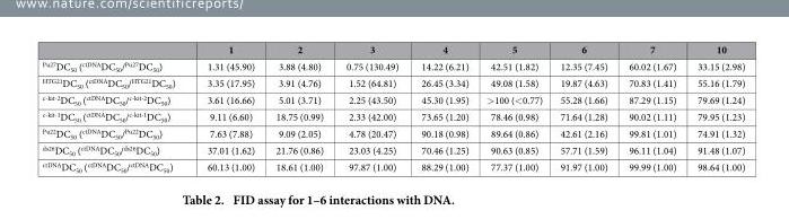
<table><thead><tr><td></td><td>1</td><td>2</td><td>3</td><td>4</td><td>5</td><td>6</td><td>7</td><td>10</td></tr></thead><tbody><tr><td><sup>Pu27</sup>DC<sub>50</sub> (<sup>ctDNA</sup>DC<sub>50</sub>/<sup>Pu27</sup>DC<sub>50</sub>)</td><td>1.31 (45.90)</td><td>3.88 (4.80)</td><td>0.75 (130.49)</td><td>14.22 (6.21)</td><td>42.51 (1.82)</td><td>12.35 (7.45)</td><td>60.02 (1.67)</td><td>33.15 (2.98)</td></tr><tr><td><sup>HTG21</sup>DC<sub>50</sub> (<sup>ctDNA</sup>DC<sub>50</sub>/<sup>HTG21</sup>DC<sub>50</sub>)</td><td>3.35 (17.95)</td><td>3.91 (4.76)</td><td>1.52 (64.81)</td><td>26.45 (3.34)</td><td>49.08 (1.58)</td><td>19.87 (4.63)</td><td>70.83 (1.41)</td><td>55.16 (1.79)</td></tr><tr><td><sup>c-kit-2</sup>DC<sub>50</sub> (<sup>ctDNA</sup>DC<sub>50</sub>/<sup>c-kit-2</sup>DC<sub>50</sub>)</td><td>3.61 (16.66)</td><td>5.01 (3.71)</td><td>2.25 (43.50)</td><td>45.30 (1.95)</td><td>&gt; 100 (&lt; 0.77)</td><td>55.28 (1.66)</td><td>87.29 (1.15)</td><td>79.69 (1.24)</td></tr><tr><td><sup>c-kit-1</sup>DC<sub>50</sub> (<sup>ctDNA</sup>DC<sub>50</sub>/<sup>c-kit-1</sup>DC<sub>50</sub>)</td><td>9.11 (6.60)</td><td>18.75 (0.99)</td><td>2.33 (42.00)</td><td>73.65 (1.20)</td><td>78.46 (0.98)</td><td>71.64 (1.28)</td><td>90.02 (1.11)</td><td>79.95 (1.23)</td></tr><tr><td><sup>Pu22</sup>DC<sub>50</sub> (<sup>ctDNA</sup>DC<sub>50</sub>/<sup>Pu22</sup>DC<sub>50</sub>)</td><td>7.63 (7.88)</td><td>9.09 (2.05)</td><td>4.78 (20.47)</td><td>90.18 (0.98)</td><td>89.64 (0.86)</td><td>42.61 (2.16)</td><td>99.81 (1.01)</td><td>74.91 (1.32)</td></tr><tr><td><sup>ds26</sup>DC<sub>50</sub> (<sup>ctDNA</sup>DC<sub>50</sub>/<sup>ds26</sup>DC<sub>50</sub>)</td><td>37.01 (1.62)</td><td>21.76 (0.86)</td><td>23.03 (4.25)</td><td>70.46 (1.25)</td><td>90.63 (0.85)</td><td>57.71 (1.59)</td><td>96.11 (1.04)</td><td>91.48 (1.07)</td></tr><tr><td><sup>ctDNA</sup>DC<sub>50</sub> (<sup>ctDNA</sup>DC<sub>50</sub>/<sup>ctDNA</sup>DC<sub>50</sub>)</td><td>60.13 (1.00)</td><td>18.61 (1.00)</td><td>97.87 (1.00)</td><td>88.29 (1.00)</td><td>77.37 (1.00)</td><td>91.97 (1.00)</td><td>99.99 (1.00)</td><td>98.64 (1.00)</td></tr></tbody></table>